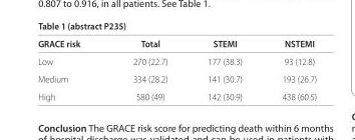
<table><thead><tr><td>GRACE risk</td><td>Total</td><td>STEMI</td><td>NSTEMI</td></tr></thead><tbody><tr><td>Low</td><td>270 (22.7)</td><td>177 (38.3)</td><td>93 (12.8)</td></tr><tr><td>Medium</td><td>334 (28.2)</td><td>141 (30.7)</td><td>193 (26.7)</td></tr><tr><td>High</td><td>580 (49)</td><td>142 (30.9)</td><td>438 (60.5)</td></tr></tbody></table>